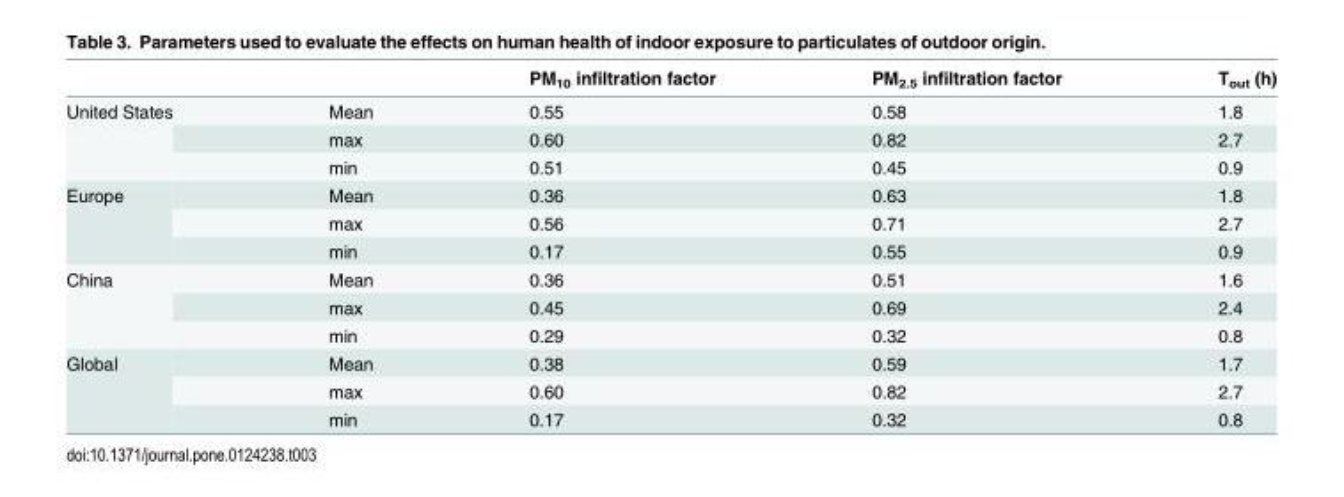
<table><thead><tr><td></td><td></td><td>PM<sub>10</sub> infiltration factor</td><td>PM<sub>2.5</sub> infiltration factor</td><td>T<sub>out</sub> (h)</td></tr></thead><tbody><tr><td rowspan="3">United States</td><td>Mean</td><td>0.55</td><td>0.58</td><td>1.8</td></tr><tr><td>max</td><td>0.60</td><td>0.82</td><td>2.7</td></tr><tr><td>min</td><td>0.51</td><td>0.45</td><td>0.9</td></tr><tr><td rowspan="3">Europe</td><td>Mean</td><td>0.36</td><td>0.63</td><td>1.8</td></tr><tr><td>max</td><td>0.56</td><td>0.71</td><td>2.7</td></tr><tr><td>min</td><td>0.17</td><td>0.55</td><td>0.9</td></tr><tr><td rowspan="3">China</td><td>Mean</td><td>0.36</td><td>0.51</td><td>1.6</td></tr><tr><td>max</td><td>0.45</td><td>0.69</td><td>2.4</td></tr><tr><td>min</td><td>0.29</td><td>0.32</td><td>0.8</td></tr><tr><td rowspan="3">Global</td><td>Mean</td><td>0.38</td><td>0.59</td><td>1.7</td></tr><tr><td>max</td><td>0.60</td><td>0.82</td><td>2.7</td></tr><tr><td>min</td><td>0.17</td><td>0.32</td><td>0.8</td></tr></tbody></table>